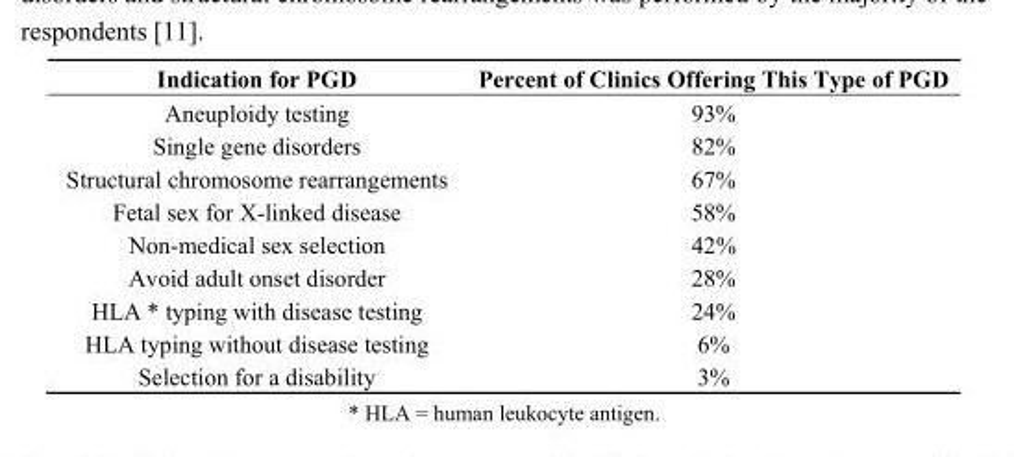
<table><thead><tr><td>Indication for PGD</td><td>Percent of Clinics Offering This Type of PGD</td></tr></thead><tbody><tr><td>Aneuploidy testing</td><td>93%</td></tr><tr><td>Single gene disorders</td><td>82%</td></tr><tr><td>Structural chromosome rearrangements</td><td>67%</td></tr><tr><td>Fetal sex for X-linked disease</td><td>58%</td></tr><tr><td>Non-medical sex selection</td><td>42%</td></tr><tr><td>Avoid adult onset disorder</td><td>28%</td></tr><tr><td>HLA * typing with disease testing</td><td>24%</td></tr><tr><td>HLA typing without disease testing</td><td>6%</td></tr><tr><td>Selection for a disability</td><td>3%</td></tr></tbody></table>